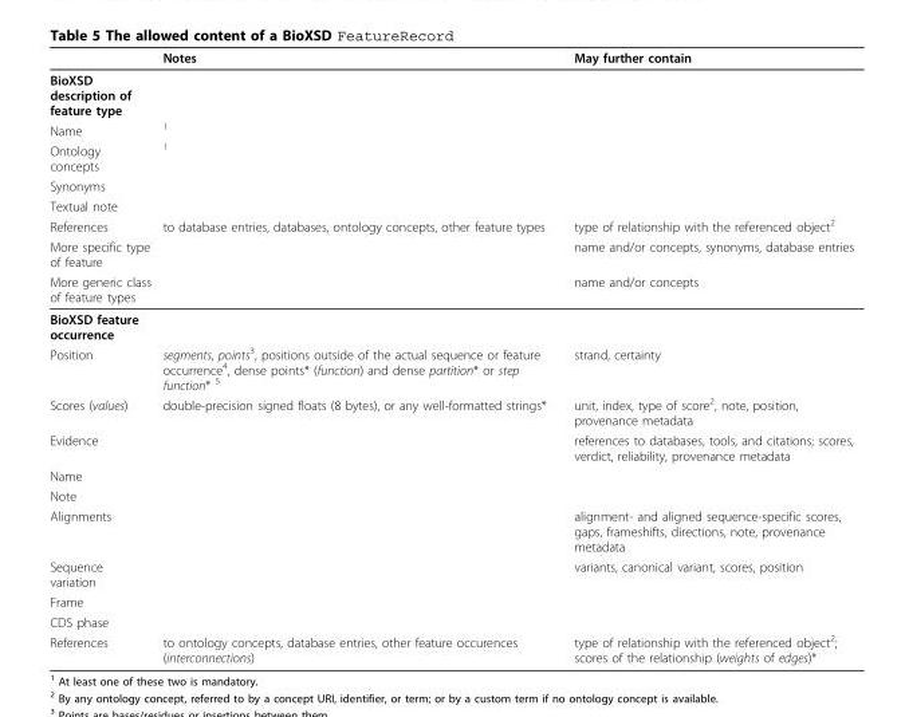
<table><thead><tr><td></td><td>Notes</td><td>May further contain</td></tr></thead><tbody><tr><td colspan="3">BioXSD description of feature type</td></tr><tr><td>Name</td><td><sup>1</sup></td><td></td></tr><tr><td>Ontology concepts</td><td><sup>1</sup></td><td></td></tr><tr><td colspan="3">Synonyms</td></tr><tr><td colspan="3">Textual note</td></tr><tr><td>References</td><td>to database entries, databases, ontology concepts, other feature types</td><td>type of relationship with the referenced object<sup>2</sup></td></tr><tr><td>More specific type of feature</td><td></td><td>name and/or concepts, synonyms, database entries</td></tr><tr><td>More generic class of feature types</td><td></td><td>name and/or concepts</td></tr><tr><td colspan="3">BioXSD feature occurrence</td></tr><tr><td>Position</td><td>segments, points<sup>3</sup>, positions outside of the actual sequence or feature occurrence<sup>4</sup>, dense points* (function) and dense partition* or step function* <sup>5</sup></td><td>strand, certainty</td></tr><tr><td>Scores (values)</td><td>double-precision signed floats (8 bytes), or any well-formatted strings*</td><td>unit, index, type of score<sup>2</sup>, note, position, provenance metadata</td></tr><tr><td>Evidence</td><td></td><td>references to databases, tools, and citations; scores, verdict, reliability, provenance metadata</td></tr><tr><td colspan="3">Name</td></tr><tr><td colspan="3">Note</td></tr><tr><td>Alignments</td><td></td><td>alignment- and aligned sequence-specific scores, gaps, frameshifts, directions, note, provenance metadata</td></tr><tr><td>Sequence variation</td><td></td><td>variants, canonical variant, scores, position</td></tr><tr><td colspan="3">Frame</td></tr><tr><td colspan="3">CDS phase</td></tr><tr><td>References</td><td>to ontology concepts, database entries, other feature occurences (interconnections)</td><td>type of relationship with the referenced object<sup>2</sup>; scores of the relationship (weights of edges)*</td></tr></tbody></table>